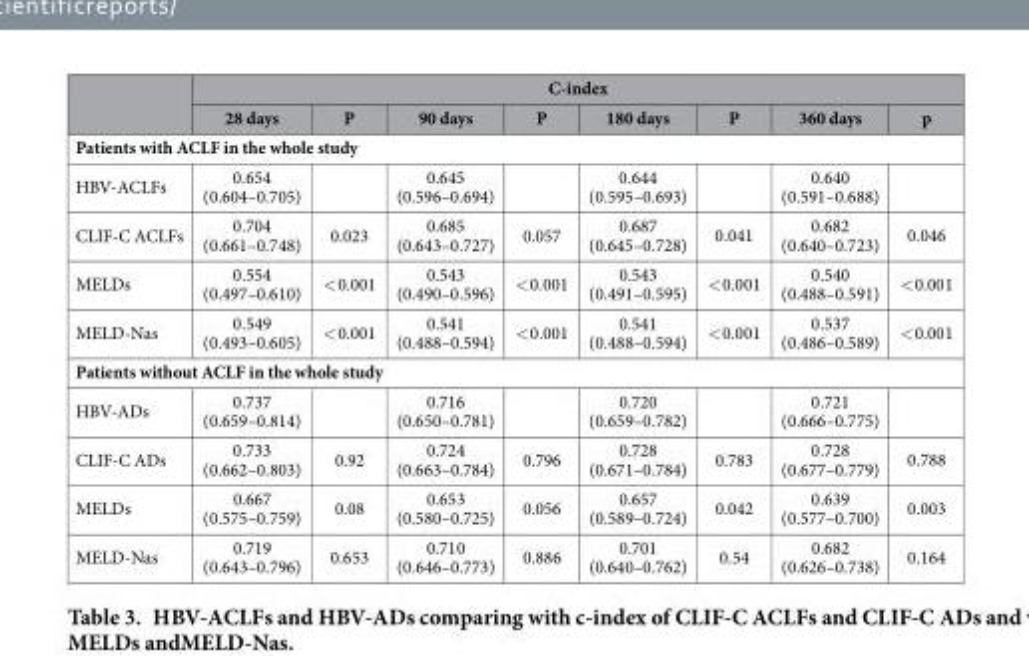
<table><thead><tr><td rowspan="2"></td><td colspan="8">C-index</td></tr><tr><td>28 days</td><td>P</td><td>90 days</td><td>P</td><td>180 days</td><td>P</td><td>360 days</td><td>p</td></tr></thead><tbody><tr><td colspan="9">Patients with ACLF in the whole study</td></tr><tr><td>HBV-ACLFs</td><td>0.654 (0.604–0.705)</td><td></td><td>0.645 (0.596–0.694)</td><td></td><td>0.644 (0.595–0.693)</td><td></td><td>0.640 (0.591–0.688)</td><td></td></tr><tr><td>CLIF-C ACLFs</td><td>0.704 (0.661–0.748)</td><td>0.023</td><td>0.685 (0.643–0.727)</td><td>0.057</td><td>0.687 (0.645–0.728)</td><td>0.041</td><td>0.682 (0.640–0.723)</td><td>0.046</td></tr><tr><td>MELDs</td><td>0.554 (0.497–0.610)</td><td>&lt; 0.001</td><td>0.543 (0.490–0.596)</td><td>&lt; 0.001</td><td>0.543 (0.491–0.595)</td><td>&lt; 0.001</td><td>0.540 (0.488–0.591)</td><td>&lt; 0.001</td></tr><tr><td>MELD-Nas</td><td>0.549 (0.493–0.605)</td><td>&lt; 0.001</td><td>0.541 (0.488–0.594)</td><td>&lt; 0.001</td><td>0.541 (0.488–0.594)</td><td>&lt; 0.001</td><td>0.537 (0.486–0.589)</td><td>&lt; 0.001</td></tr><tr><td colspan="9">Patients without ACLF in the whole study</td></tr><tr><td>HBV-ADs</td><td>0.737 (0.659–0.814)</td><td></td><td>0.716 (0.650–0.781)</td><td></td><td>0.720 (0.659–0.782)</td><td></td><td>0.721 (0.666–0.775)</td><td></td></tr><tr><td>CLIF-C ADs</td><td>0.733 (0.662–0.803)</td><td>0.92</td><td>0.724 (0.663–0.784)</td><td>0.796</td><td>0.728 (0.671–0.784)</td><td>0.783</td><td>0.728 (0.677–0.779)</td><td>0.788</td></tr><tr><td>MELDs</td><td>0.667 (0.575–0.759)</td><td>0.08</td><td>0.653 (0.580–0.725)</td><td>0.056</td><td>0.657 (0.589–0.724)</td><td>0.042</td><td>0.639 (0.577–0.700)</td><td>0.003</td></tr><tr><td>MELD-Nas</td><td>0.719 (0.643–0.796)</td><td>0.653</td><td>0.710 (0.646–0.773)</td><td>0.886</td><td>0.701 (0.640–0.762)</td><td>0.54</td><td>0.682 (0.626–0.738)</td><td>0.164</td></tr></tbody></table>